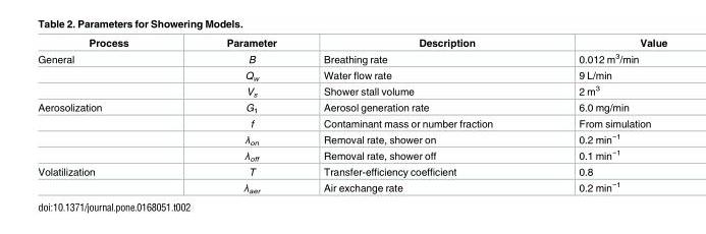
<table><thead><tr><td>Process</td><td>Parameter</td><td>Description</td><td>Value</td></tr></thead><tbody><tr><td rowspan="3">General</td><td>B</td><td>Breathing rate</td><td>0.012 m<sup>3</sup>/min</td></tr><tr><td>Q<sub>w</sub></td><td>Water flow rate</td><td>9 L/min</td></tr><tr><td>V<sub>s</sub></td><td>Shower stall volume</td><td>2 m<sup>3</sup></td></tr><tr><td rowspan="4">Aerosolization</td><td>G<sub>1</sub></td><td>Aerosol generation rate</td><td>6.0 mg/min</td></tr><tr><td>f</td><td>Contaminant mass or number fraction</td><td>From simulation</td></tr><tr><td>λ<sub>on</sub></td><td>Removal rate, shower on</td><td>0.2 min<sup>−1</sup></td></tr><tr><td>λ<sub>off</sub></td><td>Removal rate, shower off</td><td>0.1 min<sup>−1</sup></td></tr><tr><td rowspan="2">Volatilization</td><td>T</td><td>Transfer-efficiency coefficient</td><td>0.8</td></tr><tr><td>λ<sub>aer</sub></td><td>Air exchange rate</td><td>0.2 min<sup>−1</sup></td></tr></tbody></table>